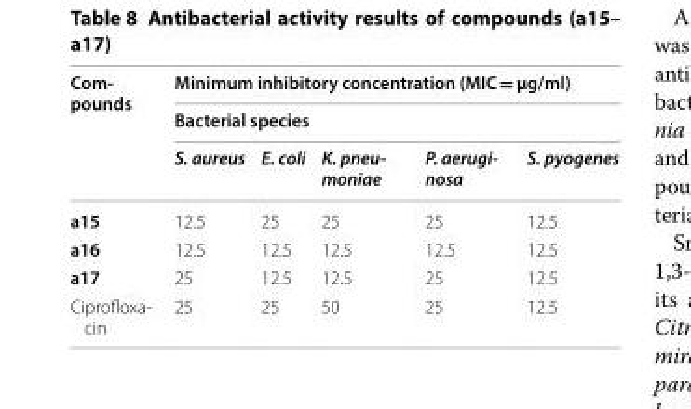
<table><thead><tr><td rowspan="3">Com- pounds</td><td rowspan="2" colspan="5">Minimum inhibitory concentration (MIC = µg/ml) Bacterial species</td></tr><tr></tr><tr><td>S. aureus</td><td>E. coli</td><td>K. pneu- moniae</td><td>P. aerugi- nosa</td><td>S. pyogenes</td></tr></thead><tbody><tr><td>a15</td><td>12.5</td><td>25</td><td>25</td><td>25</td><td>12.5</td></tr><tr><td>a16</td><td>12.5</td><td>12.5</td><td>12.5</td><td>12.5</td><td>12.5</td></tr><tr><td>a17</td><td>25</td><td>12.5</td><td>12.5</td><td>25</td><td>12.5</td></tr><tr><td>Ciprofloxa- cin</td><td>25</td><td>25</td><td>50</td><td>25</td><td>12.5</td></tr></tbody></table>